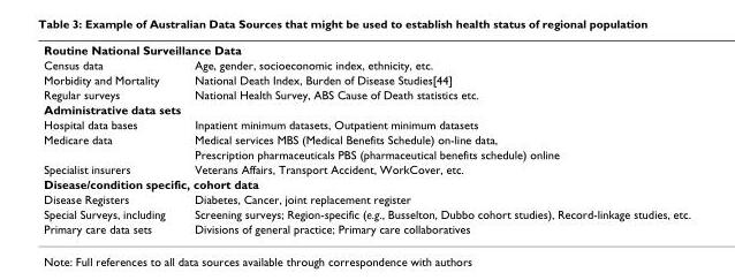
<table><tbody><tr><td colspan="2">Routine National Surveillance Data</td></tr><tr><td>Census data</td><td>Age, gender, socioeconomic index, ethnicity, etc.</td></tr><tr><td>Morbidity and Mortality</td><td>National Death Index, Burden of Disease Studies[44]</td></tr><tr><td>Regular surveys</td><td>National Health Survey, ABS Cause of Death statistics etc.</td></tr><tr><td colspan="2">Administrative data sets</td></tr><tr><td>Hospital data bases</td><td>Inpatient minimum datasets, Outpatient minimum datasets</td></tr><tr><td rowspan="2">Medicare data</td><td>Medical services MBS (Medical Benefits Schedule) on-line data,</td></tr><tr><td>Prescription pharmaceuticals PBS (pharmaceutical benefits schedule) online</td></tr><tr><td>Specialist insurers</td><td>Veterans Affairs, Transport Accident, WorkCover, etc.</td></tr><tr><td colspan="2">Disease/condition specific, cohort data</td></tr><tr><td>Disease Registers</td><td>Diabetes, Cancer, joint replacement register</td></tr><tr><td>Special Surveys, including</td><td>Screening surveys; Region-specific (e.g., Busselton, Dubbo cohort studies), Record-linkage studies, etc.</td></tr><tr><td>Primary care data sets</td><td>Divisions of general practice; Primary care collaboratives</td></tr></tbody></table>